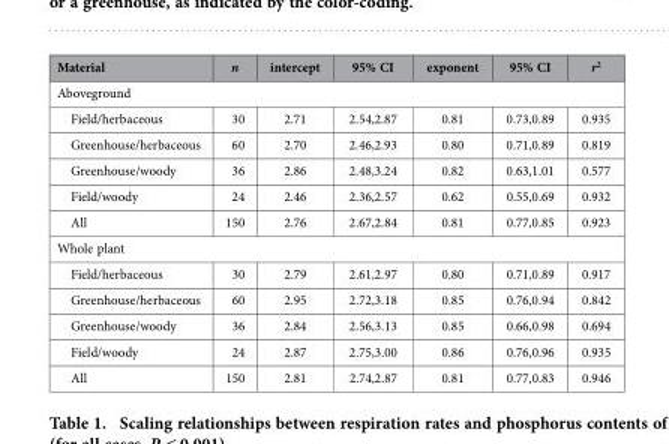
<table><thead><tr><td>Material</td><td>n</td><td>intercept</td><td>95% CI</td><td>exponent</td><td>95% CI</td><td>r<sup>2</sup></td></tr></thead><tbody><tr><td colspan="7">Aboveground</td></tr><tr><td>Field/herbaceous</td><td>30</td><td>2.71</td><td>2.54,2.87</td><td>0.81</td><td>0.73,0.89</td><td>0.935</td></tr><tr><td>Greenhouse/herbaceous</td><td>60</td><td>2.70</td><td>2.46,2.93</td><td>0.80</td><td>0.71,0.89</td><td>0.819</td></tr><tr><td>Greenhouse/woody</td><td>36</td><td>2.86</td><td>2.48,3.24</td><td>0.82</td><td>0.63,1.01</td><td>0.577</td></tr><tr><td>Field/woody</td><td>24</td><td>2.46</td><td>2.36,2.57</td><td>0.62</td><td>0.55,0.69</td><td>0.932</td></tr><tr><td>All</td><td>150</td><td>2.76</td><td>2.67,2.84</td><td>0.81</td><td>0.77,0.85</td><td>0.923</td></tr><tr><td colspan="7">Whole plant</td></tr><tr><td>Field/herbaceous</td><td>30</td><td>2.79</td><td>2.61,2.97</td><td>0.80</td><td>0.71,0.89</td><td>0.917</td></tr><tr><td>Greenhouse/herbaceous</td><td>60</td><td>2.95</td><td>2.72,3.18</td><td>0.85</td><td>0.76,0.94</td><td>0.842</td></tr><tr><td>Greenhouse/woody</td><td>36</td><td>2.84</td><td>2.56,3.13</td><td>0.85</td><td>0.66,0.98</td><td>0.694</td></tr><tr><td>Field/woody</td><td>24</td><td>2.87</td><td>2.75,3.00</td><td>0.86</td><td>0.76,0.96</td><td>0.935</td></tr><tr><td>All</td><td>150</td><td>2.81</td><td>2.74,2.87</td><td>0.81</td><td>0.77,0.83</td><td>0.946</td></tr></tbody></table>